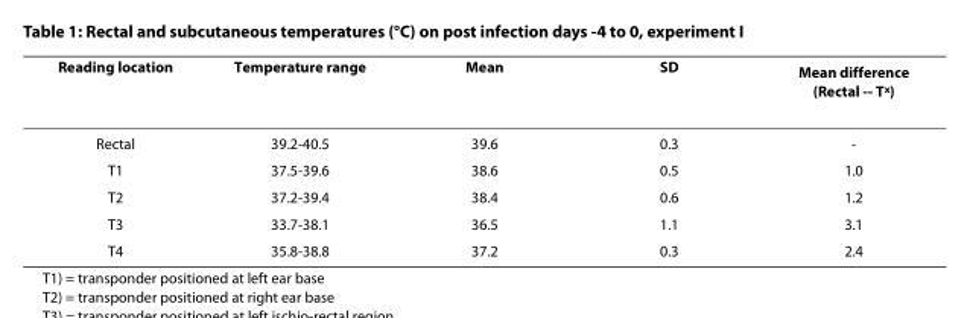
<table><thead><tr><td>Reading location</td><td>Temperature range</td><td>Mean</td><td>SD</td><td>Mean difference (Rectal -- T<sub>x</sub>)</td></tr></thead><tbody><tr><td>Rectal</td><td>39.2-40.5</td><td>39.6</td><td>0.3</td><td>-</td></tr><tr><td>T1</td><td>37.5-39.6</td><td>38.6</td><td>0.5</td><td>1.0</td></tr><tr><td>T2</td><td>37.2-39.4</td><td>38.4</td><td>0.6</td><td>1.2</td></tr><tr><td>T3</td><td>33.7-38.1</td><td>36.5</td><td>1.1</td><td>3.1</td></tr><tr><td>T4</td><td>35.8-38.8</td><td>37.2</td><td>0.3</td><td>2.4</td></tr></tbody></table>